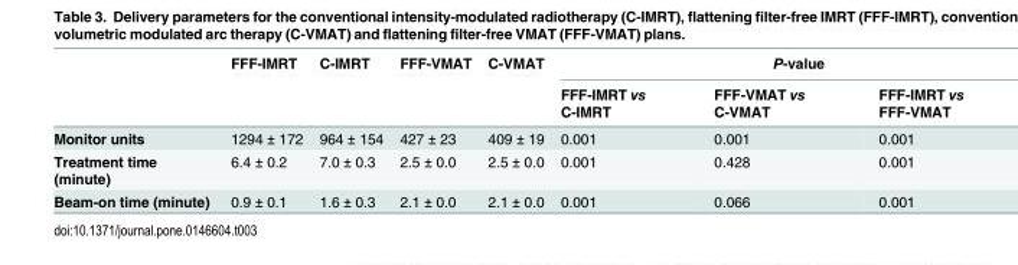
<table><thead><tr><td rowspan="2"></td><td rowspan="2">FFF-IMRT</td><td rowspan="2">C-IMRT</td><td rowspan="2">FFF-VMAT</td><td rowspan="2">C-VMAT</td><td colspan="3">P-value</td></tr><tr><td>FFF-IMRT vs C-IMRT</td><td>FFF-VMAT vs C-VMAT</td><td>FFF-IMRT vs FFF-VMAT</td></tr></thead><tbody><tr><td>Monitor units</td><td>1294 ± 172</td><td>964 ± 154</td><td>427 ± 23</td><td>409 ± 19</td><td>0.001</td><td>0.001</td><td>0.001</td></tr><tr><td>Treatment time (minute)</td><td>6.4 ± 0.2</td><td>7.0 ± 0.3</td><td>2.5 ± 0.0</td><td>2.5 ± 0.0</td><td>0.001</td><td>0.428</td><td>0.001</td></tr><tr><td>Beam-on time (minute)</td><td>0.9 ± 0.1</td><td>1.6 ± 0.3</td><td>2.1 ± 0.0</td><td>2.1 ± 0.0</td><td>0.001</td><td>0.066</td><td>0.001</td></tr></tbody></table>